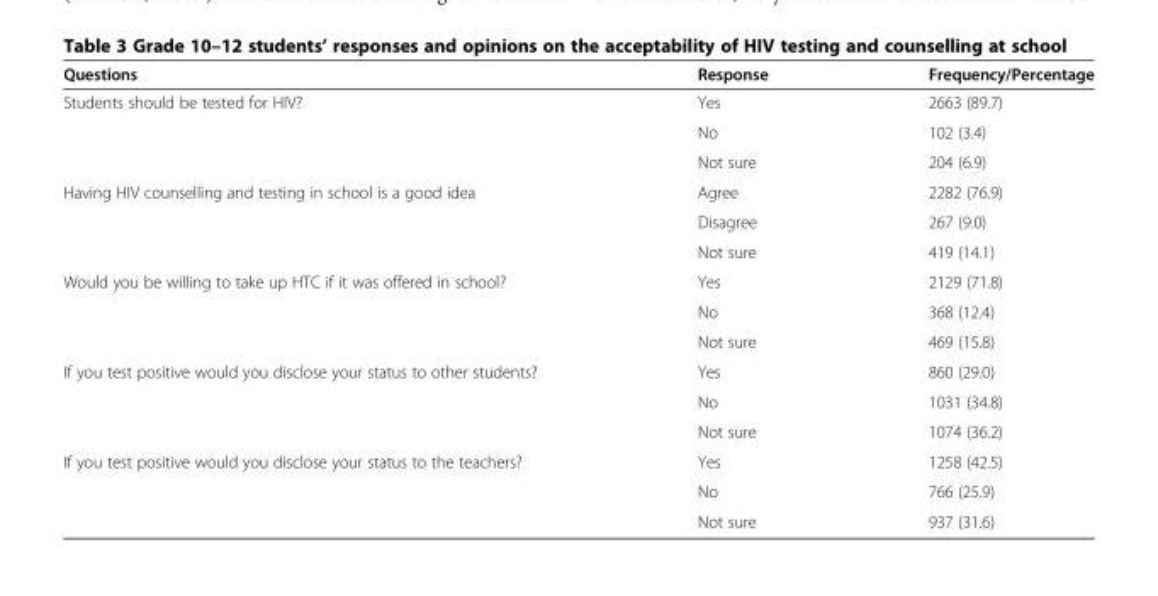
<table><thead><tr><td>Questions</td><td>Response</td><td>Frequency/Percentage</td></tr></thead><tbody><tr><td rowspan="3">Students should be tested for HIV?</td><td>Yes</td><td>2663 (89.7)</td></tr><tr><td>No</td><td>102 (3.4)</td></tr><tr><td>Not sure</td><td>204 (6.9)</td></tr><tr><td rowspan="3">Having HIV counselling and testing in school is a good idea</td><td>Agree</td><td>2282 (76.9)</td></tr><tr><td>Disagree</td><td>267 (9.0)</td></tr><tr><td>Not sure</td><td>419 (14.1)</td></tr><tr><td rowspan="3">Would you be willing to take up HTC if it was offered in school?</td><td>Yes</td><td>2129 (71.8)</td></tr><tr><td>No</td><td>368 (12.4)</td></tr><tr><td>Not sure</td><td>469 (15.8)</td></tr><tr><td rowspan="3">If you test positive would you disclose your status to other students?</td><td>Yes</td><td>860 (29.0)</td></tr><tr><td>No</td><td>1031 (34.8)</td></tr><tr><td>Not sure</td><td>1074 (36.2)</td></tr><tr><td rowspan="3">If you test positive would you disclose your status to the teachers?</td><td>Yes</td><td>1258 (42.5)</td></tr><tr><td>No</td><td>766 (25.9)</td></tr><tr><td>Not sure</td><td>937 (31.6)</td></tr></tbody></table>